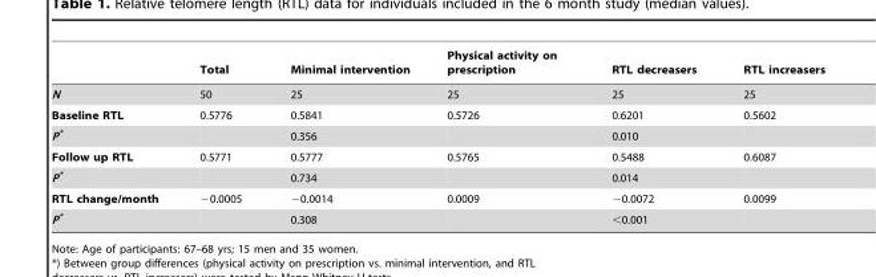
<table><thead><tr><td></td><td>Total</td><td>Minimal intervention</td><td>Physical activity on prescription</td><td>RTL decreasers</td><td>RTL increasers</td></tr></thead><tbody><tr><td>N</td><td>50</td><td>25</td><td>25</td><td>25</td><td>25</td></tr><tr><td>Baseline RTL</td><td>0.5776</td><td>0.5841</td><td>0.5726</td><td>0.6201</td><td>0.5602</td></tr><tr><td>P*</td><td></td><td>0.356</td><td></td><td>0.010</td><td></td></tr><tr><td>Follow up RTL</td><td>0.5771</td><td>0.5777</td><td>0.5765</td><td>0.5488</td><td>0.6087</td></tr><tr><td>P*</td><td></td><td>0.734</td><td></td><td>0.014</td><td></td></tr><tr><td>RTL change/month</td><td>−0.0005</td><td>−0.0014</td><td>0.0009</td><td>−0.0072</td><td>0.0099</td></tr><tr><td>P*</td><td></td><td>0.308</td><td></td><td>&lt;0.001</td><td></td></tr></tbody></table>